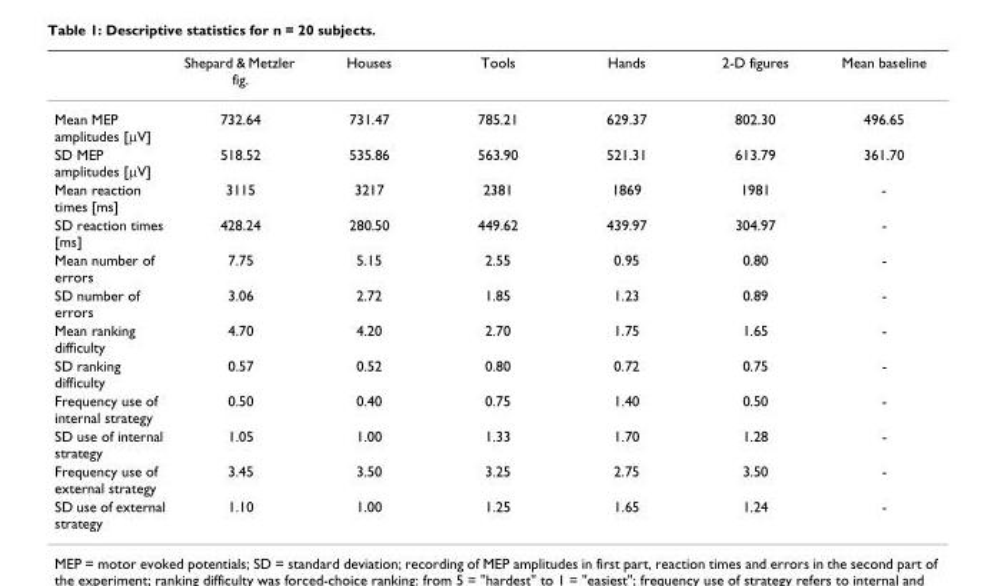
<table><thead><tr><td></td><td>Shepard &amp; Metzler fig.</td><td>Houses</td><td>Tools</td><td>Hands</td><td>2-D figures</td><td>Mean baseline</td></tr></thead><tbody><tr><td>Mean MEP amplitudes [µV]</td><td>732.64</td><td>731.47</td><td>785.21</td><td>629.37</td><td>802.30</td><td>496.65</td></tr><tr><td>SD MEP amplitudes [µV]</td><td>518.52</td><td>535.86</td><td>563.90</td><td>521.31</td><td>613.79</td><td>361.70</td></tr><tr><td>Mean reaction times [ms]</td><td>3115</td><td>3217</td><td>2381</td><td>1869</td><td>1981</td><td>-</td></tr><tr><td>SD reaction times [ms]</td><td>428.24</td><td>280.50</td><td>449.62</td><td>439.97</td><td>304.97</td><td>-</td></tr><tr><td>Mean number of errors</td><td>7.75</td><td>5.15</td><td>2.55</td><td>0.95</td><td>0.80</td><td>-</td></tr><tr><td>SD number of errors</td><td>3.06</td><td>2.72</td><td>1.85</td><td>1.23</td><td>0.89</td><td>-</td></tr><tr><td>Mean ranking difficulty</td><td>4.70</td><td>4.20</td><td>2.70</td><td>1.75</td><td>1.65</td><td>-</td></tr><tr><td>SD ranking difficulty</td><td>0.57</td><td>0.52</td><td>0.80</td><td>0.72</td><td>0.75</td><td>-</td></tr><tr><td>Frequency use of internal strategy</td><td>0.50</td><td>0.40</td><td>0.75</td><td>1.40</td><td>0.50</td><td>-</td></tr><tr><td>SD use of internal strategy</td><td>1.05</td><td>1.00</td><td>1.33</td><td>1.70</td><td>1.28</td><td>-</td></tr><tr><td>Frequency use of external strategy</td><td>3.45</td><td>3.50</td><td>3.25</td><td>2.75</td><td>3.50</td><td>-</td></tr><tr><td>SD use of external strategy</td><td>1.10</td><td>1.00</td><td>1.25</td><td>1.65</td><td>1.24</td><td>-</td></tr></tbody></table>